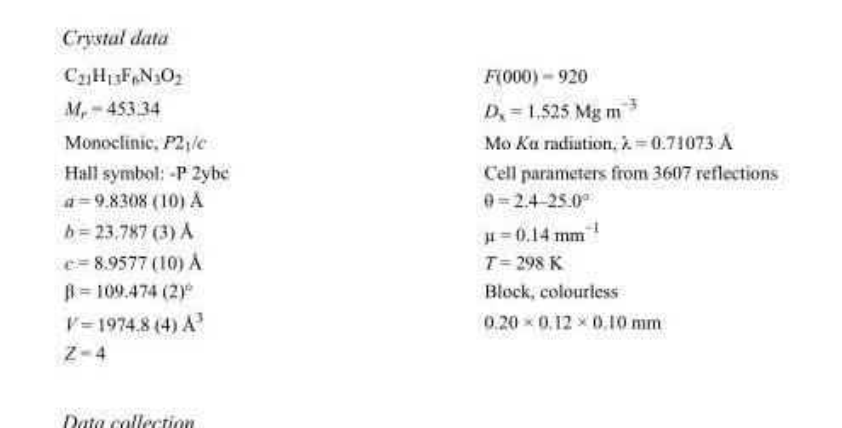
<table><tbody><tr><td>C<sub>21</sub>H<sub>13</sub>F<sub>6</sub>N<sub>3</sub>O<sub>2</sub></td><td>F(000) = 920</td></tr><tr><td>M<sub>r</sub> = 453.34</td><td>D<sub>x</sub> = 1.525 Mg m<sup>−3</sup></td></tr><tr><td>Monoclinic, P2<sub>1</sub>/c</td><td>Mo Kα radiation, λ = 0.71073 Å</td></tr><tr><td>Hall symbol: -P 2ybc</td><td>Cell parameters from 3607 reflections</td></tr><tr><td>a = 9.8308 (10) Å</td><td>θ = 2.4–25.0°</td></tr><tr><td>b = 23.787 (3) Å</td><td>µ = 0.14 mm<sup>−1</sup></td></tr><tr><td>c = 8.9577 (10) Å</td><td>T = 298 K</td></tr><tr><td>β = 109.474 (2)°</td><td>Block, colourless</td></tr><tr><td>V = 1974.8 (4) Å<sup>3</sup></td><td>0.20 × 0.12 × 0.10 mm</td></tr><tr><td>Z = 4</td><td></td></tr></tbody></table>